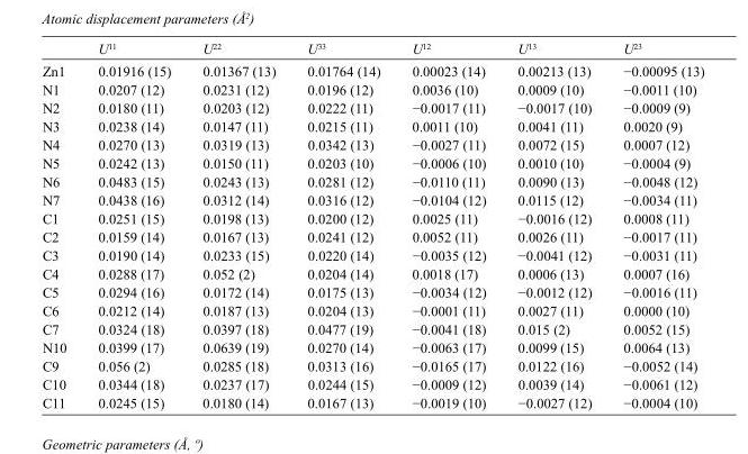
<table><thead><tr><td></td><td>U<sup>11</sup></td><td>U<sup>22</sup></td><td>U<sup>33</sup></td><td>U<sup>12</sup></td><td>U<sup>13</sup></td><td>U<sup>23</sup></td></tr></thead><tbody><tr><td>Zn1</td><td>0.01916 (15)</td><td>0.01367 (13)</td><td>0.01764 (14)</td><td>0.00023 (14)</td><td>0.00213 (13)</td><td>−0.00095 (13)</td></tr><tr><td>N1</td><td>0.0207 (12)</td><td>0.0231 (12)</td><td>0.0196 (12)</td><td>0.0036 (10)</td><td>0.0009 (10)</td><td>−0.0011 (10)</td></tr><tr><td>N2</td><td>0.0180 (11)</td><td>0.0203 (12)</td><td>0.0222 (11)</td><td>−0.0017 (11)</td><td>−0.0017 (10)</td><td>−0.0009 (9)</td></tr><tr><td>N3</td><td>0.0238 (14)</td><td>0.0147 (11)</td><td>0.0215 (11)</td><td>0.0011 (10)</td><td>0.0041 (11)</td><td>0.0020 (9)</td></tr><tr><td>N4</td><td>0.0270 (13)</td><td>0.0319 (13)</td><td>0.0342 (13)</td><td>−0.0027 (11)</td><td>0.0072 (15)</td><td>0.0007 (12)</td></tr><tr><td>N5</td><td>0.0242 (13)</td><td>0.0150 (11)</td><td>0.0203 (10)</td><td>−0.0006 (10)</td><td>0.0010 (10)</td><td>−0.0004 (9)</td></tr><tr><td>N6</td><td>0.0483 (15)</td><td>0.0243 (13)</td><td>0.0281 (12)</td><td>−0.0110 (11)</td><td>0.0090 (13)</td><td>−0.0048 (12)</td></tr><tr><td>N7</td><td>0.0438 (16)</td><td>0.0312 (14)</td><td>0.0316 (12)</td><td>−0.0104 (12)</td><td>0.0115 (12)</td><td>−0.0034 (11)</td></tr><tr><td>C1</td><td>0.0251 (15)</td><td>0.0198 (13)</td><td>0.0200 (12)</td><td>0.0025 (11)</td><td>−0.0016 (12)</td><td>0.0008 (11)</td></tr><tr><td>C2</td><td>0.0159 (14)</td><td>0.0167 (13)</td><td>0.0241 (12)</td><td>0.0052 (11)</td><td>0.0026 (11)</td><td>−0.0017 (11)</td></tr><tr><td>C3</td><td>0.0190 (14)</td><td>0.0233 (15)</td><td>0.0220 (14)</td><td>−0.0035 (12)</td><td>−0.0041 (12)</td><td>−0.0031 (11)</td></tr><tr><td>C4</td><td>0.0288 (17)</td><td>0.052 (2)</td><td>0.0204 (14)</td><td>0.0018 (17)</td><td>0.0006 (13)</td><td>0.0007 (16)</td></tr><tr><td>C5</td><td>0.0294 (16)</td><td>0.0172 (14)</td><td>0.0175 (13)</td><td>−0.0034 (12)</td><td>−0.0012 (12)</td><td>−0.0016 (11)</td></tr><tr><td>C6</td><td>0.0212 (14)</td><td>0.0187 (13)</td><td>0.0204 (13)</td><td>−0.0001 (11)</td><td>0.0027 (11)</td><td>0.0000 (10)</td></tr><tr><td>C7</td><td>0.0324 (18)</td><td>0.0397 (18)</td><td>0.0477 (19)</td><td>−0.0041 (18)</td><td>0.015 (2)</td><td>0.0052 (15)</td></tr><tr><td>N10</td><td>0.0399 (17)</td><td>0.0639 (19)</td><td>0.0270 (14)</td><td>−0.0063 (17)</td><td>0.0099 (15)</td><td>0.0064 (13)</td></tr><tr><td>C9</td><td>0.056 (2)</td><td>0.0285 (18)</td><td>0.0313 (16)</td><td>−0.0165 (17)</td><td>0.0122 (16)</td><td>−0.0052 (14)</td></tr><tr><td>C10</td><td>0.0344 (18)</td><td>0.0237 (17)</td><td>0.0244 (15)</td><td>−0.0009 (12)</td><td>0.0039 (14)</td><td>−0.0061 (12)</td></tr><tr><td>C11</td><td>0.0245 (15)</td><td>0.0180 (14)</td><td>0.0167 (13)</td><td>−0.0019 (10)</td><td>−0.0027 (12)</td><td>−0.0004 (10)</td></tr></tbody></table>